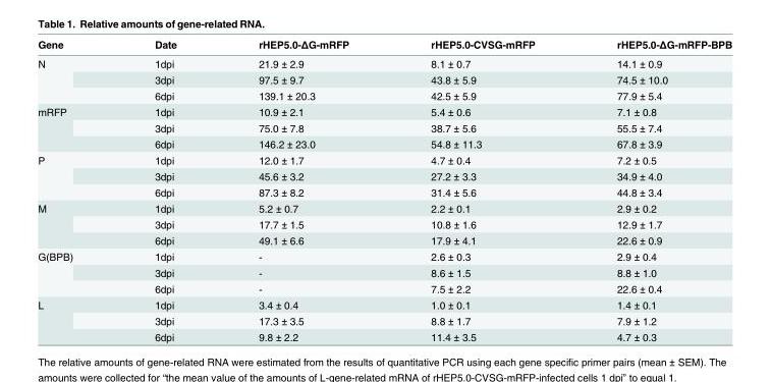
<table><thead><tr><td>Gene</td><td>Date</td><td>rHEP5.0-ΔG-mRFP</td><td>rHEP5.0-CVSG-mRFP</td><td>rHEP5.0-ΔG-mRFP-BPB</td></tr></thead><tbody><tr><td rowspan="3">N</td><td>1dpi</td><td>21.9 ± 2.9</td><td>8.1 ± 0.7</td><td>14.1 ± 0.9</td></tr><tr><td>3dpi</td><td>97.5 ± 9.7</td><td>43.8 ± 5.9</td><td>74.5 ± 10.0</td></tr><tr><td>6dpi</td><td>139.1 ± 20.3</td><td>42.5 ± 5.9</td><td>77.9 ± 5.4</td></tr><tr><td rowspan="3">mRFP</td><td>1dpi</td><td>10.9 ± 2.1</td><td>5.4 ± 0.6</td><td>7.1 ± 0.8</td></tr><tr><td>3dpi</td><td>75.0 ± 7.8</td><td>38.7 ± 5.6</td><td>55.5 ± 7.4</td></tr><tr><td>6dpi</td><td>146.2 ± 23.0</td><td>54.8 ± 11.3</td><td>67.8 ± 3.9</td></tr><tr><td rowspan="3">P</td><td>1dpi</td><td>12.0 ± 1.7</td><td>4.7 ± 0.4</td><td>7.2 ± 0.5</td></tr><tr><td>3dpi</td><td>45.6 ± 3.2</td><td>27.2 ± 3.3</td><td>34.9 ± 4.0</td></tr><tr><td>6dpi</td><td>87.3 ± 8.2</td><td>31.4 ± 5.6</td><td>44.8 ± 3.4</td></tr><tr><td rowspan="3">M</td><td>1dpi</td><td>5.2 ± 0.7</td><td>2.2 ± 0.1</td><td>2.9 ± 0.2</td></tr><tr><td>3dpi</td><td>17.7 ± 1.5</td><td>10.8 ± 1.6</td><td>12.9 ± 1.7</td></tr><tr><td>6dpi</td><td>49.1 ± 6.6</td><td>17.9 ± 4.1</td><td>22.6 ± 0.9</td></tr><tr><td rowspan="3">G(BPB)</td><td>1dpi</td><td>-</td><td>2.6 ± 0.3</td><td>2.9 ± 0.4</td></tr><tr><td>3dpi</td><td>-</td><td>8.6 ± 1.5</td><td>8.8 ± 1.0</td></tr><tr><td>6dpi</td><td>-</td><td>7.5 ± 2.2</td><td>22.6 ± 0.4</td></tr><tr><td rowspan="3">L</td><td>1dpi</td><td>3.4 ± 0.4</td><td>1.0 ± 0.1</td><td>1.4 ± 0.1</td></tr><tr><td>3dpi</td><td>17.3 ± 3.5</td><td>8.8 ± 1.7</td><td>7.9 ± 1.2</td></tr><tr><td>6dpi</td><td>9.8 ± 2.2</td><td>11.4 ± 3.5</td><td>4.7 ± 0.3</td></tr></tbody></table>